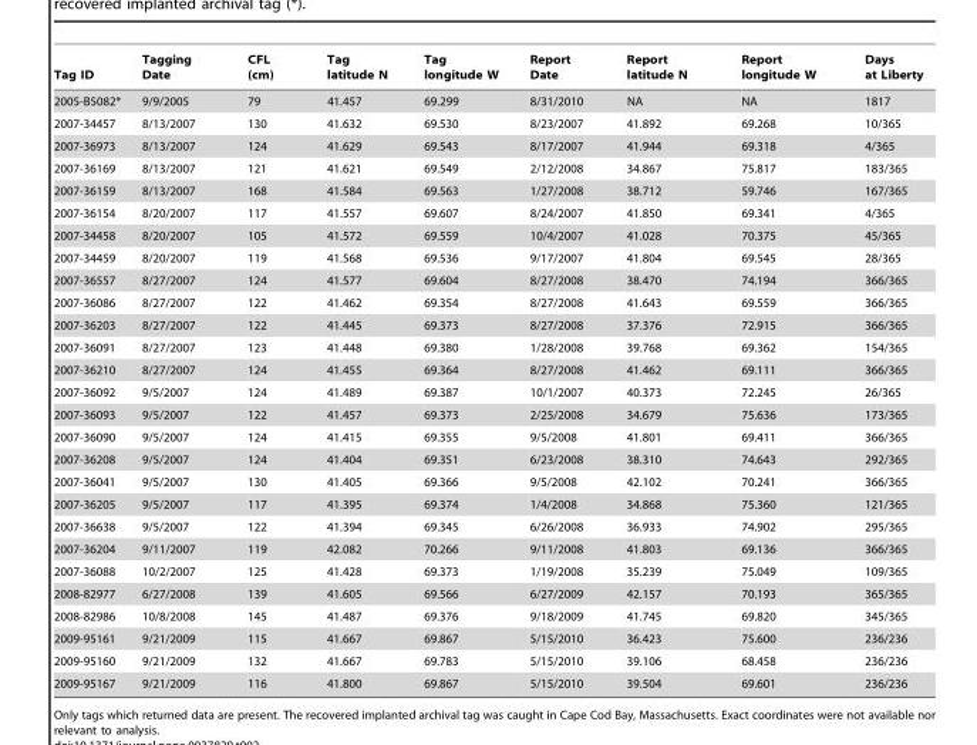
<table><thead><tr><td>Tag ID</td><td>Tagging Date</td><td>CFL (cm)</td><td>Tag latitude N</td><td>Tag longitude W</td><td>Report Date</td><td>Report latitude N</td><td>Report longitude W</td><td>Days at Liberty</td></tr></thead><tbody><tr><td>2005-B5082*</td><td>9/9/2005</td><td>79</td><td>41.457</td><td>69.299</td><td>8/31/2010</td><td>NA</td><td>NA</td><td>1817</td></tr><tr><td>2007-34457</td><td>8/13/2007</td><td>130</td><td>41.632</td><td>69.530</td><td>8/23/2007</td><td>41.892</td><td>69.268</td><td>10/365</td></tr><tr><td>2007-36973</td><td>8/13/2007</td><td>124</td><td>41.629</td><td>69.543</td><td>8/17/2007</td><td>41.944</td><td>69.318</td><td>4/365</td></tr><tr><td>2007-36169</td><td>8/13/2007</td><td>121</td><td>41.621</td><td>69.549</td><td>2/12/2008</td><td>34.867</td><td>75.817</td><td>183/365</td></tr><tr><td>2007-36159</td><td>8/13/2007</td><td>168</td><td>41.584</td><td>69.563</td><td>1/27/2008</td><td>38.712</td><td>59.746</td><td>167/365</td></tr><tr><td>2007-36154</td><td>8/20/2007</td><td>117</td><td>41.557</td><td>69.607</td><td>8/24/2007</td><td>41.850</td><td>69.341</td><td>4/365</td></tr><tr><td>2007-34458</td><td>8/20/2007</td><td>105</td><td>41.572</td><td>69.559</td><td>10/4/2007</td><td>41.028</td><td>70.375</td><td>45/365</td></tr><tr><td>2007-34459</td><td>8/20/2007</td><td>119</td><td>41.568</td><td>69.536</td><td>9/17/2007</td><td>41.804</td><td>69.545</td><td>28/365</td></tr><tr><td>2007-36557</td><td>8/27/2007</td><td>124</td><td>41.577</td><td>69.604</td><td>8/27/2008</td><td>38.470</td><td>74.194</td><td>366/365</td></tr><tr><td>2007-36086</td><td>8/27/2007</td><td>122</td><td>41.462</td><td>69.354</td><td>8/27/2008</td><td>41.643</td><td>69.559</td><td>366/365</td></tr><tr><td>2007-36203</td><td>8/27/2007</td><td>122</td><td>41.445</td><td>69.373</td><td>8/27/2008</td><td>37.376</td><td>72.915</td><td>366/365</td></tr><tr><td>2007-36091</td><td>8/27/2007</td><td>123</td><td>41.448</td><td>69.380</td><td>1/28/2008</td><td>39.768</td><td>69.362</td><td>154/365</td></tr><tr><td>2007-36210</td><td>8/27/2007</td><td>124</td><td>41.455</td><td>69.364</td><td>8/27/2008</td><td>41.462</td><td>69.111</td><td>366/365</td></tr><tr><td>2007-36092</td><td>9/5/2007</td><td>124</td><td>41.489</td><td>69.387</td><td>10/1/2007</td><td>40.373</td><td>72.245</td><td>26/365</td></tr><tr><td>2007-36093</td><td>9/5/2007</td><td>122</td><td>41.457</td><td>69.373</td><td>2/25/2008</td><td>34.679</td><td>75.636</td><td>173/365</td></tr><tr><td>2007-36090</td><td>9/5/2007</td><td>124</td><td>41.415</td><td>69.355</td><td>9/5/2008</td><td>41.801</td><td>69.411</td><td>366/365</td></tr><tr><td>2007-36208</td><td>9/5/2007</td><td>124</td><td>41.404</td><td>69.351</td><td>6/23/2008</td><td>38.310</td><td>74.643</td><td>292/365</td></tr><tr><td>2007-36041</td><td>9/5/2007</td><td>130</td><td>41.405</td><td>69.366</td><td>9/5/2008</td><td>42.102</td><td>70.241</td><td>366/365</td></tr><tr><td>2007-36205</td><td>9/5/2007</td><td>117</td><td>41.395</td><td>69.374</td><td>1/4/2008</td><td>34.868</td><td>75.360</td><td>121/365</td></tr><tr><td>2007-36638</td><td>9/5/2007</td><td>122</td><td>41.394</td><td>69.345</td><td>6/26/2008</td><td>36.933</td><td>74.902</td><td>295/365</td></tr><tr><td>2007-36204</td><td>9/11/2007</td><td>119</td><td>42.082</td><td>70.266</td><td>9/11/2008</td><td>41.803</td><td>69.136</td><td>366/365</td></tr><tr><td>2007-36088</td><td>10/2/2007</td><td>125</td><td>41.428</td><td>69.373</td><td>1/19/2008</td><td>35.239</td><td>75.049</td><td>109/365</td></tr><tr><td>2008-82977</td><td>6/27/2008</td><td>139</td><td>41.605</td><td>69.566</td><td>6/27/2009</td><td>42.157</td><td>70.193</td><td>365/365</td></tr><tr><td>2008-82986</td><td>10/8/2008</td><td>145</td><td>41.487</td><td>69.376</td><td>9/18/2009</td><td>41.745</td><td>69.820</td><td>345/365</td></tr><tr><td>2009-95161</td><td>9/21/2009</td><td>115</td><td>41.667</td><td>69.867</td><td>5/15/2010</td><td>36.423</td><td>75.600</td><td>236/236</td></tr><tr><td>2009-95160</td><td>9/21/2009</td><td>132</td><td>41.667</td><td>69.783</td><td>5/15/2010</td><td>39.106</td><td>68.458</td><td>236/236</td></tr><tr><td>2009-95167</td><td>9/21/2009</td><td>116</td><td>41.800</td><td>69.867</td><td>5/15/2010</td><td>39.504</td><td>69.601</td><td>236/236</td></tr></tbody></table>